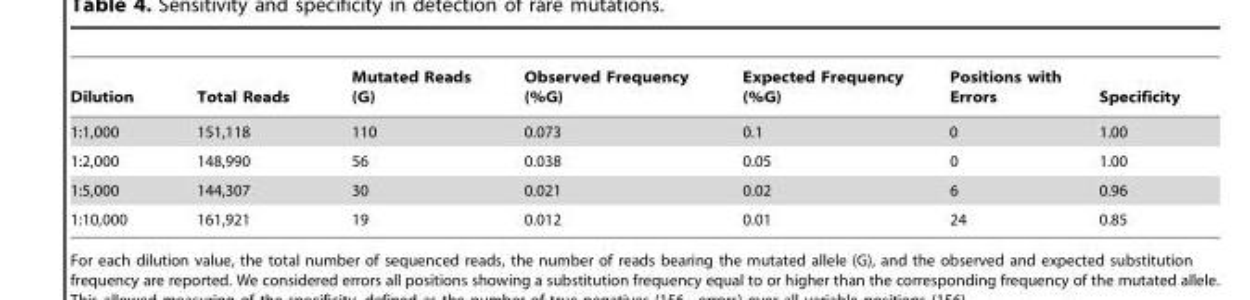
<table><thead><tr><td>Dilution</td><td>Total Reads</td><td>Mutated Reads (G)</td><td>Observed Frequency (%G)</td><td>Expected Frequency (%G)</td><td>Positions with Errors</td><td>Specificity</td></tr></thead><tbody><tr><td>1:1,000</td><td>151,118</td><td>110</td><td>0.073</td><td>0.1</td><td>0</td><td>1.00</td></tr><tr><td>1:2,000</td><td>148,990</td><td>56</td><td>0.038</td><td>0.05</td><td>0</td><td>1.00</td></tr><tr><td>1:5,000</td><td>144,307</td><td>30</td><td>0.021</td><td>0.02</td><td>6</td><td>0.96</td></tr><tr><td>1:10,000</td><td>161,921</td><td>19</td><td>0.012</td><td>0.01</td><td>24</td><td>0.85</td></tr></tbody></table>